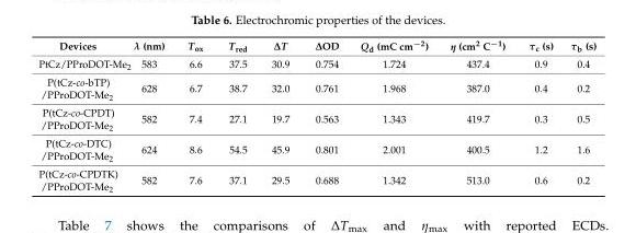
<table><thead><tr><td>Devices</td><td>λ (nm)</td><td>T<sub>ox</sub></td><td>T<sub>red</sub></td><td>∆T</td><td>∆OD</td><td>Q<sub>d</sub> (mC cm<sup>−2</sup>)</td><td>η (cm<sup>2</sup> C<sup>−1</sup>)</td><td>τ<sub>c</sub> (s)</td><td>τ<sub>b</sub> (s)</td></tr></thead><tbody><tr><td>PtCz/PProDOT-Me<sub>2</sub></td><td>583</td><td>6.6</td><td>37.5</td><td>30.9</td><td>0.754</td><td>1.724</td><td>437.4</td><td>0.9</td><td>0.4</td></tr><tr><td>P(tCz-co-bTP) /PProDOT-Me<sub>2</sub></td><td>628</td><td>6.7</td><td>38.7</td><td>32.0</td><td>0.761</td><td>1.968</td><td>387.0</td><td>0.4</td><td>0.2</td></tr><tr><td>P(tCz-co-CPDT) /PProDOT-Me<sub>2</sub></td><td>582</td><td>7.4</td><td>27.1</td><td>19.7</td><td>0.563</td><td>1.343</td><td>419.7</td><td>0.3</td><td>0.5</td></tr><tr><td>P(tCz-co-DTC) /PProDOT-Me<sub>2</sub></td><td>624</td><td>8.6</td><td>54.5</td><td>45.9</td><td>0.801</td><td>2.001</td><td>400.5</td><td>1.2</td><td>1.6</td></tr><tr><td>P(tCz-co-CPDTK) /PProDOT-Me<sub>2</sub></td><td>582</td><td>7.6</td><td>37.1</td><td>29.5</td><td>0.688</td><td>1.342</td><td>513.0</td><td>0.6</td><td>0.2</td></tr></tbody></table>